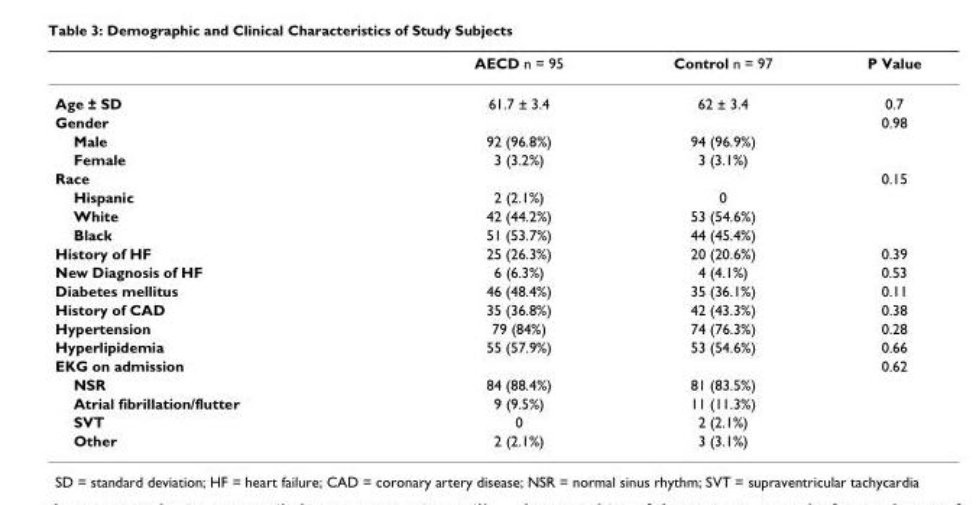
<table><thead><tr><td></td><td>AECD n = 95</td><td>Control n = 97</td><td>P Value</td></tr></thead><tbody><tr><td>Age ± SD</td><td>61.7 ± 3.4</td><td>62 ± 3.4</td><td>0.7</td></tr><tr><td>Gender</td><td></td><td></td><td>0.98</td></tr><tr><td>Male</td><td>92 (96.8%)</td><td>94 (96.9%)</td><td></td></tr><tr><td>Female</td><td>3 (3.2%)</td><td>3 (3.1%)</td><td></td></tr><tr><td>Race</td><td></td><td></td><td>0.15</td></tr><tr><td>Hispanic</td><td>2 (2.1%)</td><td>0</td><td></td></tr><tr><td>White</td><td>42 (44.2%)</td><td>53 (54.6%)</td><td></td></tr><tr><td>Black</td><td>51 (53.7%)</td><td>44 (45.4%)</td><td></td></tr><tr><td>History of HF</td><td>25 (26.3%)</td><td>20 (20.6%)</td><td>0.39</td></tr><tr><td>New Diagnosis of HF</td><td>6 (6.3%)</td><td>4 (4.1%)</td><td>0.53</td></tr><tr><td>Diabetes mellitus</td><td>46 (48.4%)</td><td>35 (36.1%)</td><td>0.11</td></tr><tr><td>History of CAD</td><td>35 (36.8%)</td><td>42 (43.3%)</td><td>0.38</td></tr><tr><td>Hypertension</td><td>79 (84%)</td><td>74 (76.3%)</td><td>0.28</td></tr><tr><td>Hyperlipidemia</td><td>55 (57.9%)</td><td>53 (54.6%)</td><td>0.66</td></tr><tr><td>EKG on admission</td><td></td><td></td><td>0.62</td></tr><tr><td>NSR</td><td>84 (88.4%)</td><td>81 (83.5%)</td><td></td></tr><tr><td>Atrial fibrillation/flutter</td><td>9 (9.5%)</td><td>11 (11.3%)</td><td></td></tr><tr><td>SVT</td><td>0</td><td>2 (2.1%)</td><td></td></tr><tr><td>Other</td><td>2 (2.1%)</td><td>3 (3.1%)</td><td></td></tr></tbody></table>